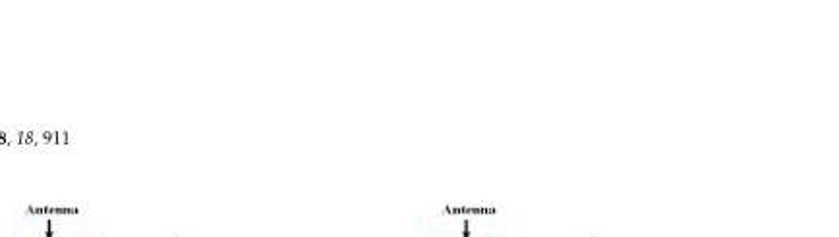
<table><thead><tr><td>Type</td><td>Dielectric Constant</td><td>Conductivity (S/m)</td><td>Mass Density (kg/m<sup>3</sup>)</td></tr></thead><tbody><tr><td>Skin</td><td>36</td><td>4</td><td>1010</td></tr><tr><td>Tissue</td><td>50</td><td>7</td><td>1040</td></tr><tr><td>Tumor</td><td>67</td><td>5</td><td>1040</td></tr></tbody></table>